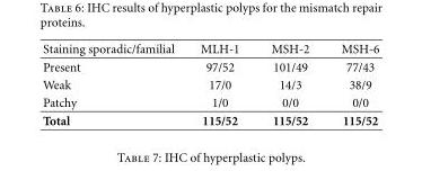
<table><thead><tr><td>Staining sporadic/familial</td><td>MLH-1</td><td>MSH-2</td><td>MSH-6</td></tr></thead><tbody><tr><td>Present</td><td>97/52</td><td>101/49</td><td>77/43</td></tr><tr><td>Weak</td><td>17/0</td><td>14/3</td><td>38/9</td></tr><tr><td>Patchy</td><td>1/0</td><td>0/0</td><td>0/0</td></tr><tr><td>Total</td><td>115/52</td><td>115/52</td><td>115/52</td></tr></tbody></table>